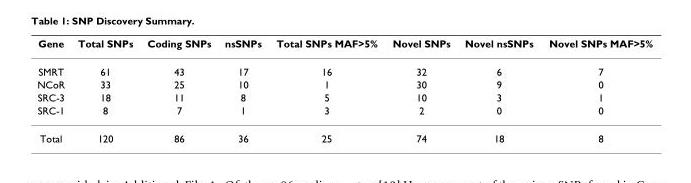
<table><thead><tr><td>Gene</td><td>Total SNPs</td><td>Coding SNPs</td><td>nsSNPs</td><td>Total SNPs MAF&gt;5%</td><td>Novel SNPs</td><td>Novel nsSNPs</td><td>Novel SNPs MAF&gt;5%</td></tr></thead><tbody><tr><td>SMRT</td><td>61</td><td>43</td><td>17</td><td>16</td><td>32</td><td>6</td><td>7</td></tr><tr><td>NCoR</td><td>33</td><td>25</td><td>10</td><td>1</td><td>30</td><td>9</td><td>0</td></tr><tr><td>SRC-3</td><td>18</td><td>11</td><td>8</td><td>5</td><td>10</td><td>3</td><td>1</td></tr><tr><td>SRC-1</td><td>8</td><td>7</td><td>1</td><td>3</td><td>2</td><td>0</td><td>0</td></tr><tr><td>Total</td><td>120</td><td>86</td><td>36</td><td>25</td><td>74</td><td>18</td><td>8</td></tr></tbody></table>